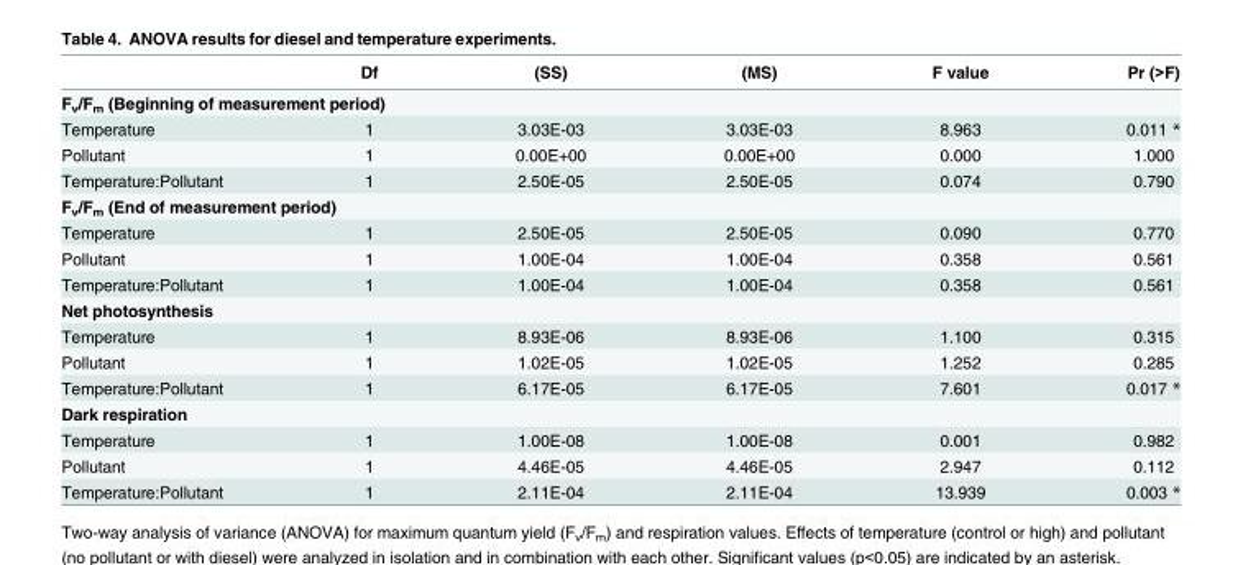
<table><thead><tr><td></td><td>Df</td><td>(SS)</td><td>(MS)</td><td>F value</td><td>Pr (&gt;F)</td></tr></thead><tbody><tr><td colspan="6">F<sub>v</sub>/F<sub>m</sub> (Beginning of measurement period)</td></tr><tr><td>Temperature</td><td>1</td><td>3.03E-03</td><td>3.03E-03</td><td>8.963</td><td>0.011 *</td></tr><tr><td>Pollutant</td><td>1</td><td>0.00E+00</td><td>0.00E+00</td><td>0.000</td><td>1.000</td></tr><tr><td>Temperature:Pollutant</td><td>1</td><td>2.50E-05</td><td>2.50E-05</td><td>0.074</td><td>0.790</td></tr><tr><td colspan="6">F<sub>v</sub>/F<sub>m</sub> (End of measurement period)</td></tr><tr><td>Temperature</td><td>1</td><td>2.50E-05</td><td>2.50E-05</td><td>0.090</td><td>0.770</td></tr><tr><td>Pollutant</td><td>1</td><td>1.00E-04</td><td>1.00E-04</td><td>0.358</td><td>0.561</td></tr><tr><td>Temperature:Pollutant</td><td>1</td><td>1.00E-04</td><td>1.00E-04</td><td>0.358</td><td>0.561</td></tr><tr><td colspan="6">Net photosynthesis</td></tr><tr><td>Temperature</td><td>1</td><td>8.93E-06</td><td>8.93E-06</td><td>1.100</td><td>0.315</td></tr><tr><td>Pollutant</td><td>1</td><td>1.02E-05</td><td>1.02E-05</td><td>1.252</td><td>0.285</td></tr><tr><td>Temperature:Pollutant</td><td>1</td><td>6.17E-05</td><td>6.17E-05</td><td>7.601</td><td>0.017 *</td></tr><tr><td colspan="6">Dark respiration</td></tr><tr><td>Temperature</td><td>1</td><td>1.00E-08</td><td>1.00E-08</td><td>0.001</td><td>0.982</td></tr><tr><td>Pollutant</td><td>1</td><td>4.46E-05</td><td>4.46E-05</td><td>2.947</td><td>0.112</td></tr><tr><td>Temperature:Pollutant</td><td>1</td><td>2.11E-04</td><td>2.11E-04</td><td>13.939</td><td>0.003 *</td></tr></tbody></table>